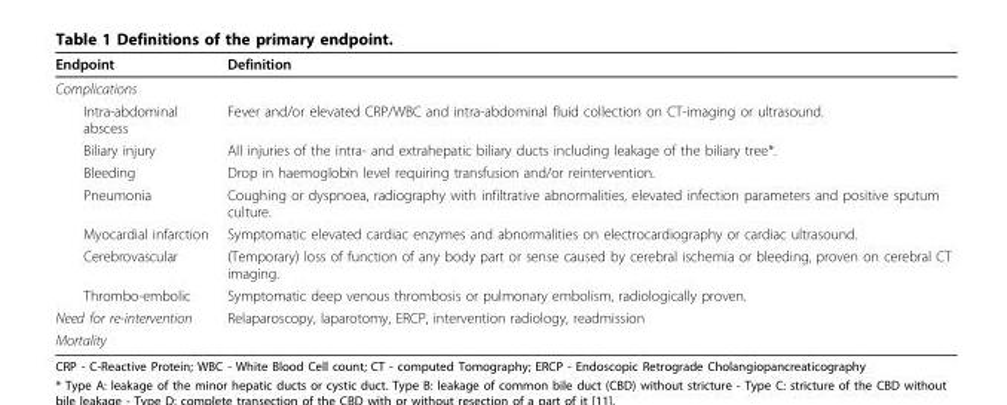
<table><thead><tr><td>Endpoint</td><td>Definition</td></tr></thead><tbody><tr><td colspan="2">Complications</td></tr><tr><td>Intra-abdominal abscess</td><td>Fever and/or elevated CRP/WBC and intra-abdominal fluid collection on CT-imaging or ultrasound.</td></tr><tr><td>Biliary injury</td><td>All injuries of the intra- and extrahepatic biliary ducts including leakage of the biliary tree*.</td></tr><tr><td>Bleeding</td><td>Drop in haemoglobin level requiring transfusion and/or reintervention.</td></tr><tr><td>Pneumonia</td><td>Coughing or dyspnoea, radiography with infiltrative abnormalities, elevated infection parameters and positive sputum culture.</td></tr><tr><td>Myocardial infarction</td><td>Symptomatic elevated cardiac enzymes and abnormalities on electrocardiography or cardiac ultrasound.</td></tr><tr><td>Cerebrovascular</td><td>(Temporary) loss of function of any body part or sense caused by cerebral ischemia or bleeding, proven on cerebral CT imaging.</td></tr><tr><td>Thrombo-embolic</td><td>Symptomatic deep venous thrombosis or pulmonary embolism, radiologically proven.</td></tr><tr><td>Need for re-intervention</td><td>Relaparoscopy, laparotomy, ERCP, intervention radiology, readmission</td></tr><tr><td>Mortality</td><td></td></tr></tbody></table>